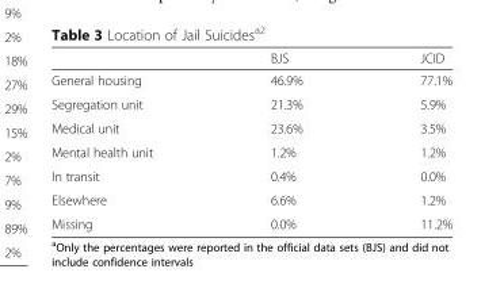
<table><thead><tr><td></td><td>BJS</td><td>JCID</td></tr></thead><tbody><tr><td>General housing</td><td>46.9%</td><td>77.1%</td></tr><tr><td>Segregation unit</td><td>21.3%</td><td>5.9%</td></tr><tr><td>Medical unit</td><td>23.6%</td><td>3.5%</td></tr><tr><td>Mental health unit</td><td>1.2%</td><td>1.2%</td></tr><tr><td>In transit</td><td>0.4%</td><td>0.0%</td></tr><tr><td>Elsewhere</td><td>6.6%</td><td>1.2%</td></tr><tr><td>Missing</td><td>0.0%</td><td>11.2%</td></tr></tbody></table>